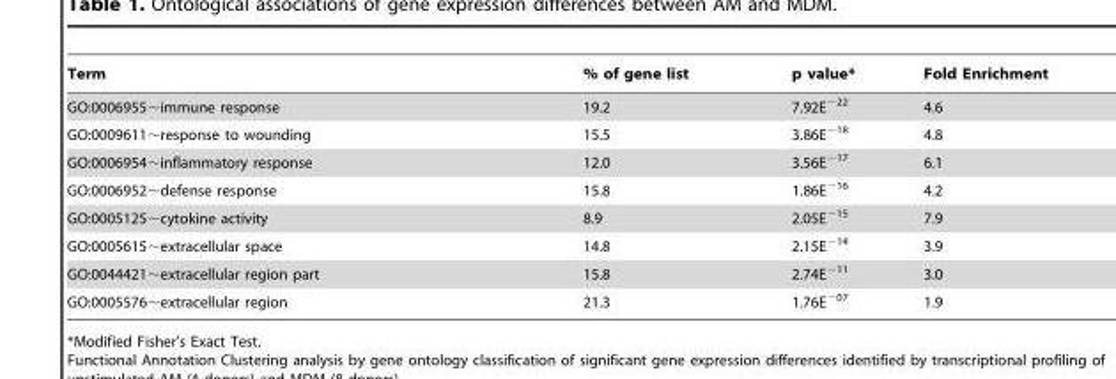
<table><thead><tr><td>Term</td><td>% of gene list</td><td>p value*</td><td>Fold Enrichment</td></tr></thead><tbody><tr><td>GO:0006955∼immune response</td><td>19.2</td><td>7.92E<sup>−22</sup></td><td>4.6</td></tr><tr><td>GO:0009611∼response to wounding</td><td>15.5</td><td>3.86E<sup>−18</sup></td><td>4.8</td></tr><tr><td>GO:0006954∼inflammatory response</td><td>12.0</td><td>3.56E<sup>−17</sup></td><td>6.1</td></tr><tr><td>GO:0006952∼defense response</td><td>15.8</td><td>1.86E<sup>−16</sup></td><td>4.2</td></tr><tr><td>GO:0005125∼cytokine activity</td><td>8.9</td><td>2.05E<sup>−15</sup></td><td>7.9</td></tr><tr><td>GO:0005615∼extracellular space</td><td>14.8</td><td>2.15E<sup>−14</sup></td><td>3.9</td></tr><tr><td>GO:0044421∼extracellular region part</td><td>15.8</td><td>2.74E<sup>−11</sup></td><td>3.0</td></tr><tr><td>GO:0005576∼extracellular region</td><td>21.3</td><td>1.76E<sup>−07</sup></td><td>1.9</td></tr></tbody></table>